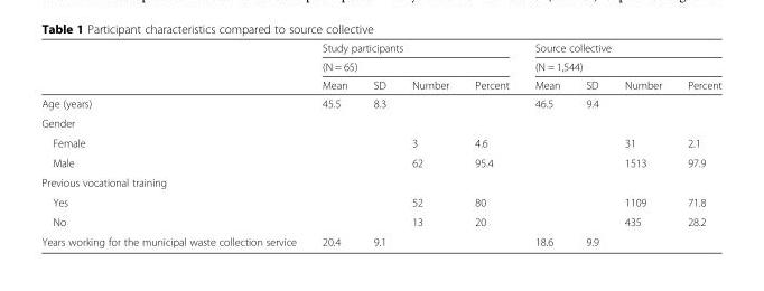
<table><thead><tr><td rowspan="3"></td><td rowspan="2" colspan="4">Study participants (N = 65)</td><td rowspan="2" colspan="4">Source collective (N = 1,544)</td></tr><tr></tr><tr><td>Mean</td><td>SD</td><td>Number</td><td>Percent</td><td>Mean</td><td>SD</td><td>Number</td><td>Percent</td></tr></thead><tbody><tr><td>Age (years)</td><td>45.5</td><td>8.3</td><td></td><td></td><td>46.5</td><td>9.4</td><td></td><td></td></tr><tr><td colspan="9">Gender</td></tr><tr><td>Female</td><td></td><td></td><td>3</td><td>4.6</td><td></td><td></td><td>31</td><td>2.1</td></tr><tr><td>Male</td><td></td><td></td><td>62</td><td>95.4</td><td></td><td></td><td>1513</td><td>97.9</td></tr><tr><td colspan="9">Previous vocational training</td></tr><tr><td>Yes</td><td></td><td></td><td>52</td><td>80</td><td></td><td></td><td>1109</td><td>71.8</td></tr><tr><td>No</td><td></td><td></td><td>13</td><td>20</td><td></td><td></td><td>435</td><td>28.2</td></tr><tr><td>Years working for the municipal waste collection service</td><td>20.4</td><td>9.1</td><td></td><td></td><td>18.6</td><td>9.9</td><td></td><td></td></tr></tbody></table>